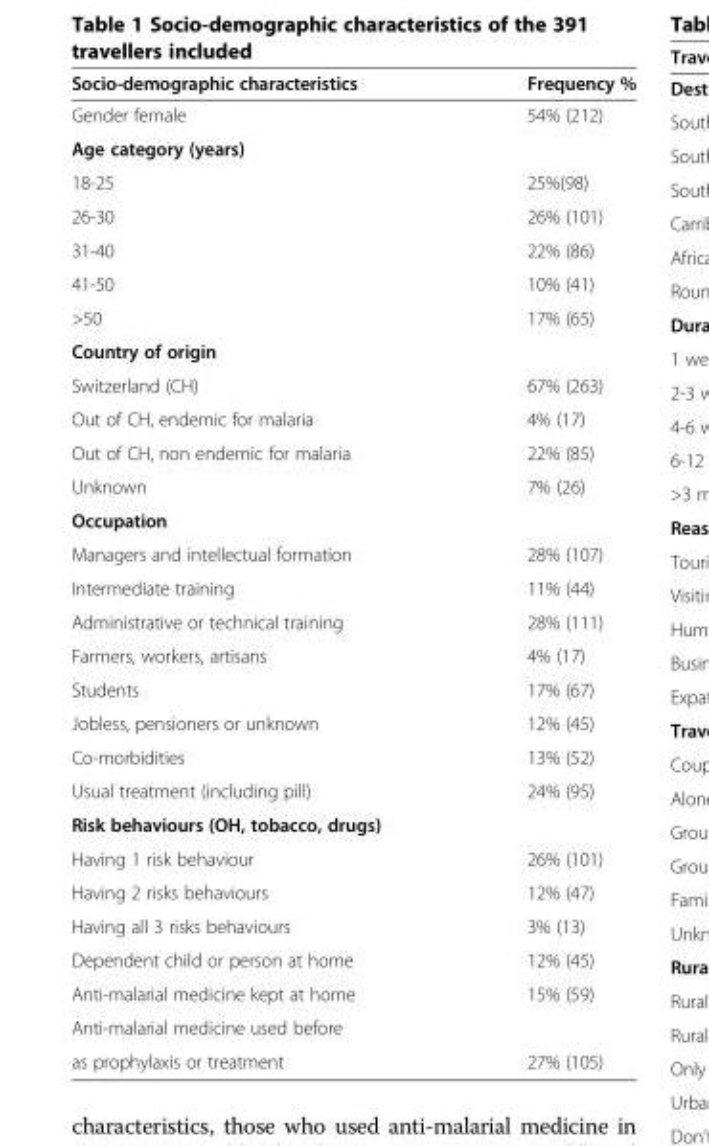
<table><thead><tr><td>Socio-demographic characteristics</td><td>Frequency %</td></tr></thead><tbody><tr><td>Gender female</td><td>54% (212)</td></tr><tr><td colspan="2">Age category (years)</td></tr><tr><td>18-25</td><td>25%(98)</td></tr><tr><td>26-30</td><td>26% (101)</td></tr><tr><td>31-40</td><td>22% (86)</td></tr><tr><td>41-50</td><td>10% (41)</td></tr><tr><td>&gt;50</td><td>17% (65)</td></tr><tr><td colspan="2">Country of origin</td></tr><tr><td>Switzerland (CH)</td><td>67% (263)</td></tr><tr><td>Out of CH, endemic for malaria</td><td>4% (17)</td></tr><tr><td>Out of CH, non endemic for malaria</td><td>22% (85)</td></tr><tr><td>Unknown</td><td>7% (26)</td></tr><tr><td colspan="2">Occupation</td></tr><tr><td>Managers and intellectual formation</td><td>28% (107)</td></tr><tr><td>Intermediate training</td><td>11% (44)</td></tr><tr><td>Administrative or technical training</td><td>28% (111)</td></tr><tr><td>Farmers, workers, artisans</td><td>4% (17)</td></tr><tr><td>Students</td><td>17% (67)</td></tr><tr><td>Jobless, pensioners or unknown</td><td>12% (45)</td></tr><tr><td>Co-morbidities</td><td>13% (52)</td></tr><tr><td>Usual treatment (including pill)</td><td>24% (95)</td></tr><tr><td colspan="2">Risk behaviours (OH, tobacco, drugs)</td></tr><tr><td>Having 1 risk behaviour</td><td>26% (101)</td></tr><tr><td>Having 2 risks behaviours</td><td>12% (47)</td></tr><tr><td>Having all 3 risks behaviours</td><td>3% (13)</td></tr><tr><td>Dependent child or person at home</td><td>12% (45)</td></tr><tr><td>Anti-malarial medicine kept at home</td><td>15% (59)</td></tr><tr><td colspan="2">Anti-malarial medicine used before</td></tr><tr><td>as prophylaxis or treatment</td><td>27% (105)</td></tr></tbody></table>